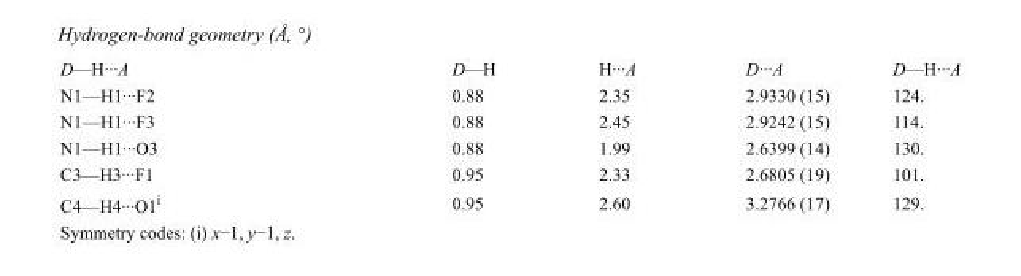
<table><tbody><tr><td>D—H···A</td><td>D—H</td><td>H···A</td><td>D···A</td><td>D—H···A</td></tr><tr><td>N1—H1···F2</td><td>0.88</td><td>2.35</td><td>2.9330 (15)</td><td>124.</td></tr><tr><td>N1—H1···F3</td><td>0.88</td><td>2.45</td><td>2.9242 (15)</td><td>114.</td></tr><tr><td>N1—H1···O3</td><td>0.88</td><td>1.99</td><td>2.6399 (14)</td><td>130.</td></tr><tr><td>C3—H3···F1</td><td>0.95</td><td>2.33</td><td>2.6805 (19)</td><td>101.</td></tr><tr><td>C4—H4···O1<sup>i</sup></td><td>0.95</td><td>2.60</td><td>3.2766 (17)</td><td>129.</td></tr></tbody></table>